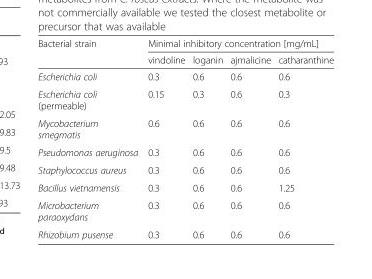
<table><thead><tr><td rowspan="2">Bacterial strain</td><td colspan="4">Minimal inhibitory concentration [mg/mL]</td></tr><tr><td>vindoline</td><td>loganin</td><td>ajmalicine</td><td>catharanthine</td></tr></thead><tbody><tr><td>Escherichia coli</td><td>0.3</td><td>0.6</td><td>0.6</td><td>0.6</td></tr><tr><td>Escherichia coli (permeable)</td><td>0.15</td><td>0.3</td><td>0.6</td><td>0.3</td></tr><tr><td>Mycobacterium smegmatis</td><td>0.6</td><td>0.6</td><td>0.6</td><td>0.6</td></tr><tr><td>Pseudomonas aeruginosa</td><td>0.3</td><td>0.6</td><td>0.6</td><td>0.6</td></tr><tr><td>Staphylococcus aureus</td><td>0.3</td><td>0.6</td><td>0.6</td><td>0.6</td></tr><tr><td>Bacillus vietnamensis</td><td>0.3</td><td>0.6</td><td>0.6</td><td>1.25</td></tr><tr><td>Microbacterium paraoxydans</td><td>0.3</td><td>0.6</td><td>0.6</td><td>0.6</td></tr><tr><td>Rhizobium pusense</td><td>0.3</td><td>0.6</td><td>0.6</td><td>0.6</td></tr></tbody></table>